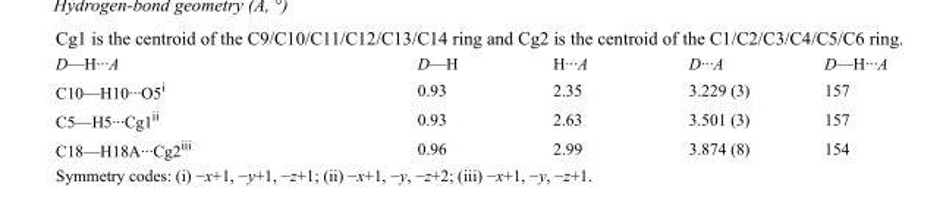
<table><tbody><tr><td>D—H···A</td><td>D—H</td><td>H···A</td><td>D···A</td><td>D—H···A</td></tr><tr><td>C10—H10···O5<sup>i</sup></td><td>0.93</td><td>2.35</td><td>3.229 (3)</td><td>157</td></tr><tr><td>C5—H5···Cg1<sup>ii</sup></td><td>0.93</td><td>2.63</td><td>3.501 (3)</td><td>157</td></tr><tr><td>C18—H18A···Cg2<sup>iii</sup></td><td>0.96</td><td>2.99</td><td>3.874 (8)</td><td>154</td></tr></tbody></table>